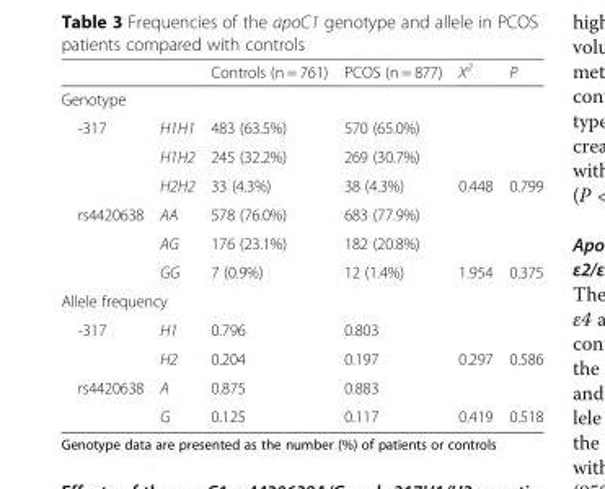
<table><thead><tr><td></td><td></td><td>Controls (n = 761)</td><td>PCOS (n = 877)</td><td>X<sup>2</sup></td><td>P</td></tr></thead><tbody><tr><td colspan="6">Genotype</td></tr><tr><td rowspan="3">-317</td><td>H1H1</td><td>483 (63.5%)</td><td>570 (65.0%)</td><td></td><td></td></tr><tr><td>H1H2</td><td>245 (32.2%)</td><td>269 (30.7%)</td><td></td><td></td></tr><tr><td>H2H2</td><td>33 (4.3%)</td><td>38 (4.3%)</td><td>0.448</td><td>0.799</td></tr><tr><td rowspan="3">rs4420638</td><td>AA</td><td>578 (76.0%)</td><td>683 (77.9%)</td><td></td><td></td></tr><tr><td>AG</td><td>176 (23.1%)</td><td>182 (20.8%)</td><td></td><td></td></tr><tr><td>GG</td><td>7 (0.9%)</td><td>12 (1.4%)</td><td>1.954</td><td>0.375</td></tr><tr><td colspan="6">Allele frequency</td></tr><tr><td rowspan="2">-317</td><td>H1</td><td>0.796</td><td>0.803</td><td></td><td></td></tr><tr><td>H2</td><td>0.204</td><td>0.197</td><td>0.297</td><td>0.586</td></tr><tr><td rowspan="2">rs4420638</td><td>A</td><td>0.875</td><td>0.883</td><td></td><td></td></tr><tr><td>G</td><td>0.125</td><td>0.117</td><td>0.419</td><td>0.518</td></tr></tbody></table>